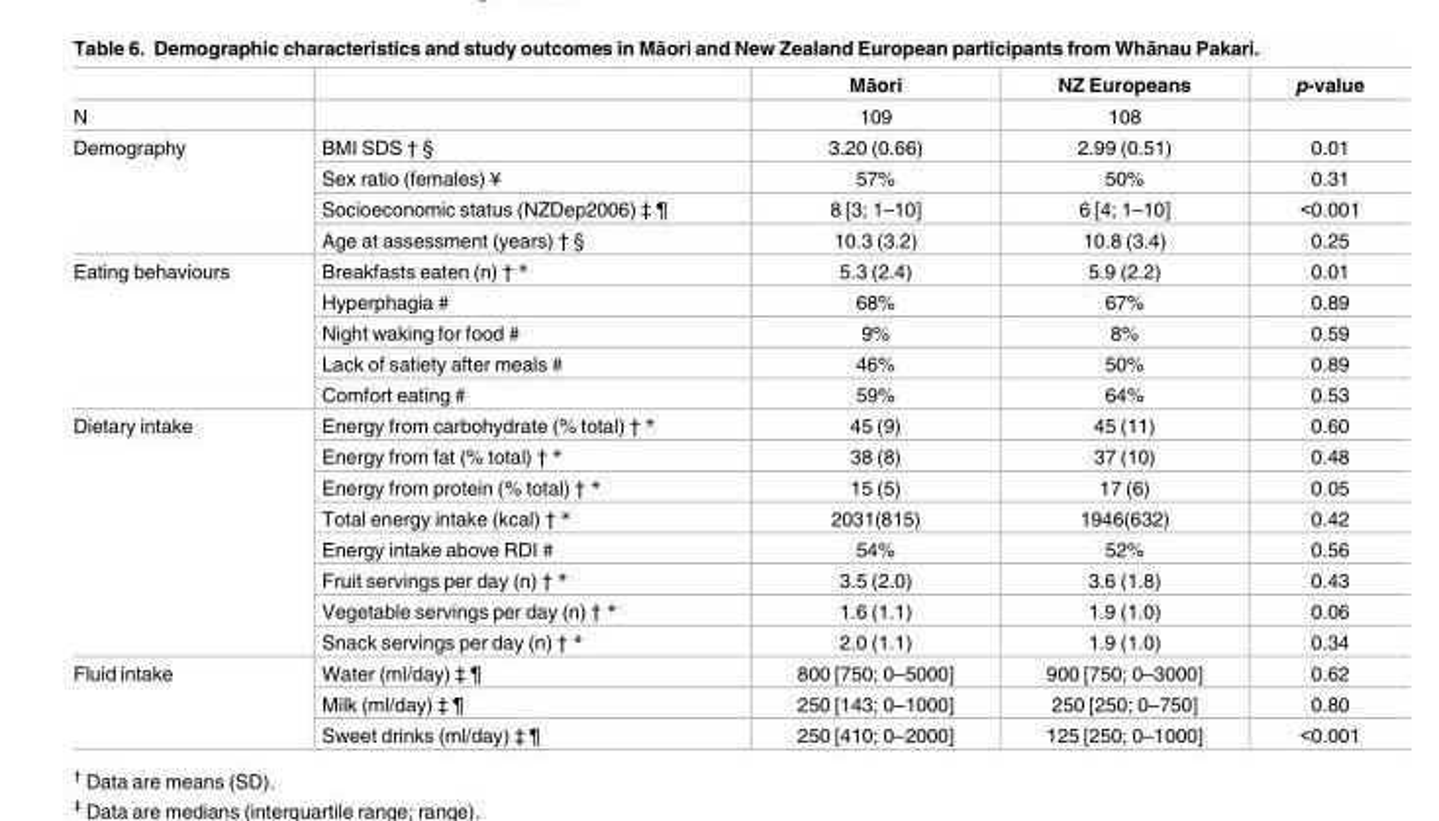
<table><thead><tr><td></td><td></td><td>Māori</td><td>NZ Europeans</td><td>p-value</td></tr></thead><tbody><tr><td>N</td><td></td><td>109</td><td>108</td><td></td></tr><tr><td rowspan="4">Demography</td><td>BMI SDS † §</td><td>3.20 (0.66)</td><td>2.99 (0.51)</td><td>0.01</td></tr><tr><td>Sex ratio (females) ¥</td><td>57%</td><td>50%</td><td>0.31</td></tr><tr><td>Socioeconomic status (NZDep2006) ‡ ¶</td><td>8 [3; 1–10]</td><td>6 [4; 1–10]</td><td>&lt;0.001</td></tr><tr><td>Age at assessment (years) † §</td><td>10.3 (3.2)</td><td>10.8 (3.4)</td><td>0.25</td></tr><tr><td rowspan="5">Eating behaviours</td><td>Breakfasts eaten (n) † *</td><td>5.3 (2.4)</td><td>5.9 (2.2)</td><td>0.01</td></tr><tr><td>Hyperphagia #</td><td>68%</td><td>67%</td><td>0.89</td></tr><tr><td>Night waking for food #</td><td>9%</td><td>8%</td><td>0.59</td></tr><tr><td>Lack of satiety after meals #</td><td>46%</td><td>50%</td><td>0.89</td></tr><tr><td>Comfort eating #</td><td>59%</td><td>64%</td><td>0.53</td></tr><tr><td rowspan="8">Dietary intake</td><td>Energy from carbohydrate (% total) † *</td><td>45 (9)</td><td>45 (11)</td><td>0.60</td></tr><tr><td>Energy from fat (% total) † *</td><td>38 (8)</td><td>37 (10)</td><td>0.48</td></tr><tr><td>Energy from protein (% total) † *</td><td>15 (5)</td><td>17 (6)</td><td>0.05</td></tr><tr><td>Total energy intake (kcal) † *</td><td>2031(815)</td><td>1946(632)</td><td>0.42</td></tr><tr><td>Energy intake above RDI #</td><td>54%</td><td>52%</td><td>0.56</td></tr><tr><td>Fruit servings per day (n) † *</td><td>3.5 (2.0)</td><td>3.6 (1.8)</td><td>0.43</td></tr><tr><td>Vegetable servings per day (n) † *</td><td>1.6 (1.1)</td><td>1.9 (1.0)</td><td>0.06</td></tr><tr><td>Snack servings per day (n) † *</td><td>2.0 (1.1)</td><td>1.9 (1.0)</td><td>0.34</td></tr><tr><td rowspan="3">Fluid intake</td><td>Water (ml/day) ‡ ¶</td><td>800 [750; 0–5000]</td><td>900 [750; 0–3000]</td><td>0.62</td></tr><tr><td>Milk (ml/day) ‡ ¶</td><td>250 [143; 0–1000]</td><td>250 [250; 0–750]</td><td>0.80</td></tr><tr><td>Sweet drinks (ml/day) ‡ ¶</td><td>250 [410; 0–2000]</td><td>125 [250; 0–1000]</td><td>&lt;0.001</td></tr></tbody></table>